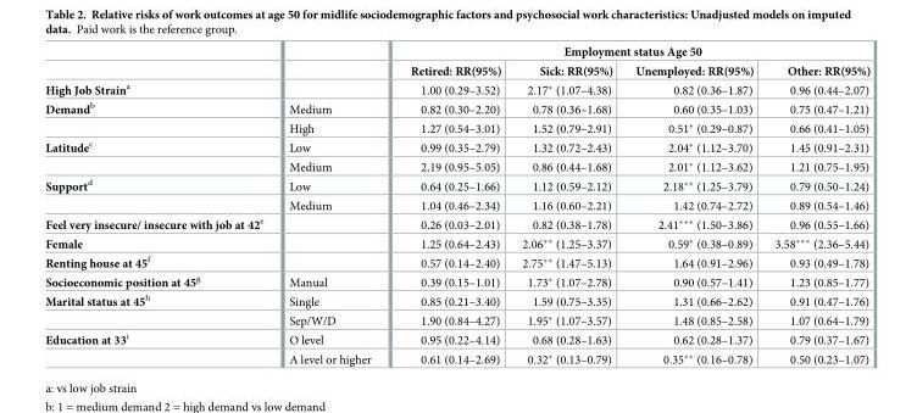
<table><thead><tr><td rowspan="2"></td><td rowspan="2"></td><td colspan="4">Employment status Age 50</td></tr><tr><td>Retired: RR(95%)</td><td>Sick: RR(95%)</td><td>Unemployed: RR(95%)</td><td>Other: RR(95%)</td></tr></thead><tbody><tr><td>High Job Strain<sup>a</sup></td><td></td><td>1.00 (0.29–3.52)</td><td>2.17* (1.07–4.38)</td><td>0.82 (0.36–1.87)</td><td>0.96 (0.44–2.07)</td></tr><tr><td rowspan="2">Demand<sup>b</sup></td><td>Medium</td><td>0.82 (0.30–2.20)</td><td>0.78 (0.36–1.68)</td><td>0.60 (0.35–1.03)</td><td>0.75 (0.47–1.21)</td></tr><tr><td>High</td><td>1.27 (0.54–3.01)</td><td>1.52 (0.79–2.91)</td><td>0.51* (0.29–0.87)</td><td>0.66 (0.41–1.05)</td></tr><tr><td rowspan="2">Latitude<sup>c</sup></td><td>Low</td><td>0.99 (0.35–2.79)</td><td>1.32 (0.72–2.43)</td><td>2.04* (1.12–3.70)</td><td>1.45 (0.91–2.31)</td></tr><tr><td>Medium</td><td>2.19 (0.95–5.05)</td><td>0.86 (0.44–1.68)</td><td>2.01* (1.12–3.62)</td><td>1.21 (0.75–1.95)</td></tr><tr><td rowspan="2">Support<sup>d</sup></td><td>Low</td><td>0.64 (0.25–1.66)</td><td>1.12 (0.59–2.12)</td><td>2.18** (1.25–3.79)</td><td>0.79 (0.50–1.24)</td></tr><tr><td>Medium</td><td>1.04 (0.46–2.34)</td><td>1.16 (0.60–2.21)</td><td>1.42 (0.74–2.72)</td><td>0.89 (0.54–1.46)</td></tr><tr><td>Feel very insecure/ insecure with job at 42<sup>e</sup></td><td></td><td>0.26 (0.03–2.01)</td><td>0.82 (0.38–1.78)</td><td>2.41*** (1.50–3.86)</td><td>0.96 (0.55–1.66)</td></tr><tr><td>Female</td><td></td><td>1.25 (0.64–2.43)</td><td>2.06** (1.25–3.37)</td><td>0.59* (0.38–0.89)</td><td>3.58*** (2.36–5.44)</td></tr><tr><td>Renting house at 45<sup>f</sup></td><td></td><td>0.57 (0.14–2.40)</td><td>2.75** (1.47–5.13)</td><td>1.64 (0.91–2.96)</td><td>0.93 (0.49–1.78)</td></tr><tr><td>Socioeconomic position at 45<sup>g</sup></td><td>Manual</td><td>0.39 (0.15–1.01)</td><td>1.73* (1.07–2.78)</td><td>0.90 (0.57–1.41)</td><td>1.23 (0.85–1.77)</td></tr><tr><td rowspan="2">Marital status at 45<sup>h</sup></td><td>Single</td><td>0.85 (0.21–3.40)</td><td>1.59 (0.75–3.35)</td><td>1.31 (0.66–2.62)</td><td>0.91 (0.47–1.76)</td></tr><tr><td>Sep/W/D</td><td>1.90 (0.84–4.27)</td><td>1.95* (1.07–3.57)</td><td>1.48 (0.85–2.58)</td><td>1.07 (0.64–1.79)</td></tr><tr><td rowspan="2">Education at 33<sup>i</sup></td><td>O level</td><td>0.95 (0.22–4.14)</td><td>0.68 (0.28–1.63)</td><td>0.62 (0.28–1.37)</td><td>0.79 (0.37–1.67)</td></tr><tr><td>A level or higher</td><td>0.61 (0.14–2.69)</td><td>0.32* (0.13–0.79)</td><td>0.35** (0.16–0.78)</td><td>0.50 (0.23–1.07)</td></tr></tbody></table>